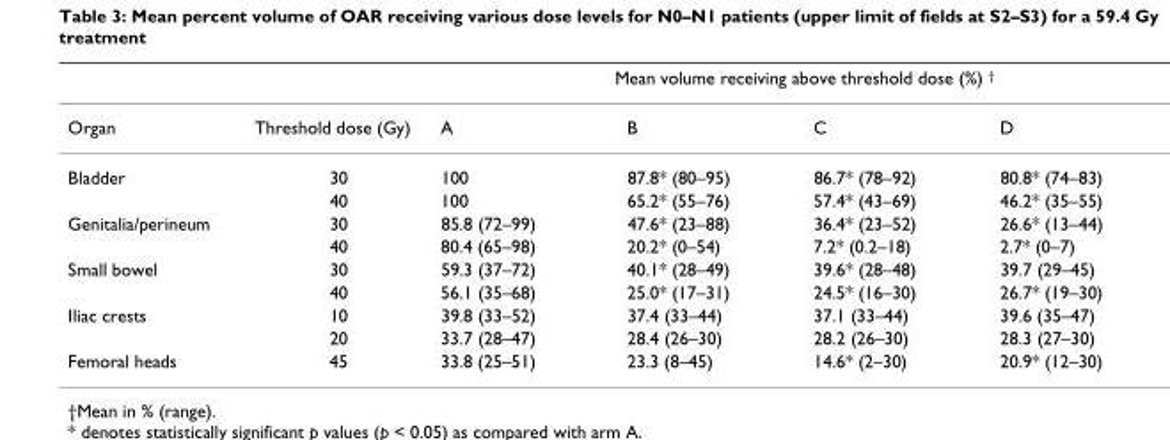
<table><thead><tr><td rowspan="2">Organ</td><td rowspan="2">Threshold dose (Gy)</td><td colspan="4">Mean volume receiving above threshold dose (%) <sup>†</sup></td></tr><tr><td>A</td><td>B</td><td>C</td><td>D</td></tr></thead><tbody><tr><td rowspan="2">Bladder</td><td>30</td><td>100</td><td>87.8* (80–95)</td><td>86.7* (78–92)</td><td>80.8* (74–83)</td></tr><tr><td>40</td><td>100</td><td>65.2* (55–76)</td><td>57.4* (43–69)</td><td>46.2* (35–55)</td></tr><tr><td rowspan="2">Genitalia/perineum</td><td>30</td><td>85.8 (72–99)</td><td>47.6* (23–88)</td><td>36.4* (23–52)</td><td>26.6* (13–44)</td></tr><tr><td>40</td><td>80.4 (65–98)</td><td>20.2* (0–54)</td><td>7.2* (0.2–18)</td><td>2.7* (0–7)</td></tr><tr><td rowspan="2">Small bowel</td><td>30</td><td>59.3 (37–72)</td><td>40.1* (28–49)</td><td>39.6* (28–48)</td><td>39.7 (29–45)</td></tr><tr><td>40</td><td>56.1 (35–68)</td><td>25.0* (17–31)</td><td>24.5* (16–30)</td><td>26.7* (19–30)</td></tr><tr><td rowspan="2">Iliac crests</td><td>10</td><td>39.8 (33–52)</td><td>37.4 (33–44)</td><td>37.1 (33–44)</td><td>39.6 (35–47)</td></tr><tr><td>20</td><td>33.7 (28–47)</td><td>28.4 (26–30)</td><td>28.2 (26–30)</td><td>28.3 (27–30)</td></tr><tr><td>Femoral heads</td><td>45</td><td>33.8 (25–51)</td><td>23.3 (8–45)</td><td>14.6* (2–30)</td><td>20.9* (12–30)</td></tr></tbody></table>